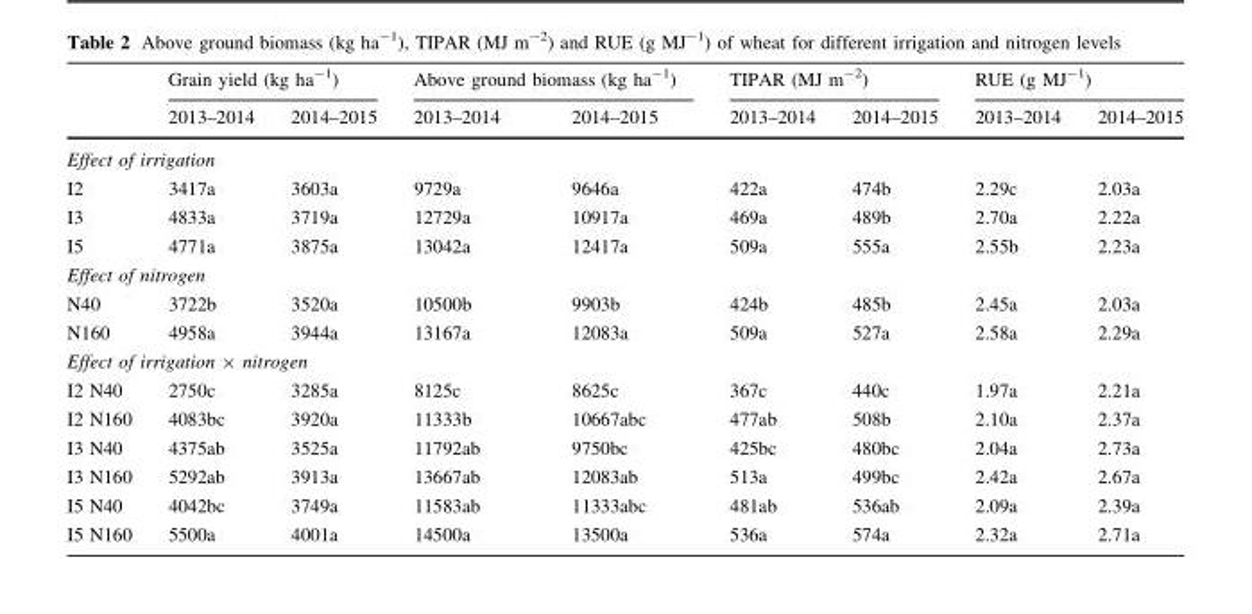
<table><thead><tr><td rowspan="2"></td><td colspan="2">Grain yield (kg ha<sup>-1</sup>)</td><td colspan="2">Above ground biomass (kg ha<sup>-1</sup>)</td><td colspan="2">TIPAR (MJ m<sup>-2</sup>)</td><td colspan="2">RUE (g MJ<sup>-1</sup>)</td></tr><tr><td>2013–2014</td><td>2014–2015</td><td>2013–2014</td><td>2014–2015</td><td>2013–2014</td><td>2014–2015</td><td>2013–2014</td><td>2014–2015</td></tr></thead><tbody><tr><td colspan="9">Effect of irrigation</td></tr><tr><td>I2</td><td>3417a</td><td>3603a</td><td>9729a</td><td>9646a</td><td>422a</td><td>474b</td><td>2.29c</td><td>2.03a</td></tr><tr><td>I3</td><td>4833a</td><td>3719a</td><td>12729a</td><td>10917a</td><td>469a</td><td>489b</td><td>2.70a</td><td>2.22a</td></tr><tr><td>I5</td><td>4771a</td><td>3875a</td><td>13042a</td><td>12417a</td><td>509a</td><td>555a</td><td>2.55b</td><td>2.23a</td></tr><tr><td colspan="9">Effect of nitrogen</td></tr><tr><td>N40</td><td>3722b</td><td>3520a</td><td>10500b</td><td>9903b</td><td>424b</td><td>485b</td><td>2.45a</td><td>2.03a</td></tr><tr><td>N160</td><td>4958a</td><td>3944a</td><td>13167a</td><td>12083a</td><td>509a</td><td>527a</td><td>2.58a</td><td>2.29a</td></tr><tr><td colspan="9">Effect of irrigation × nitrogen</td></tr><tr><td>I2 N40</td><td>2750c</td><td>3285a</td><td>8125c</td><td>8625c</td><td>367c</td><td>440c</td><td>1.97a</td><td>2.21a</td></tr><tr><td>I2 N160</td><td>4083bc</td><td>3920a</td><td>11333b</td><td>10667abc</td><td>477ab</td><td>508b</td><td>2.10a</td><td>2.37a</td></tr><tr><td>I3 N40</td><td>4375ab</td><td>3525a</td><td>11792ab</td><td>9750bc</td><td>425bc</td><td>480bc</td><td>2.04a</td><td>2.73a</td></tr><tr><td>I3 N160</td><td>5292ab</td><td>3913a</td><td>13667ab</td><td>12083ab</td><td>513a</td><td>499bc</td><td>2.42a</td><td>2.67a</td></tr><tr><td>I5 N40</td><td>4042bc</td><td>3749a</td><td>11583ab</td><td>11333abc</td><td>481ab</td><td>536ab</td><td>2.09a</td><td>2.39a</td></tr><tr><td>I5 N160</td><td>5500a</td><td>4001a</td><td>14500a</td><td>13500a</td><td>536a</td><td>574a</td><td>2.32a</td><td>2.71a</td></tr></tbody></table>